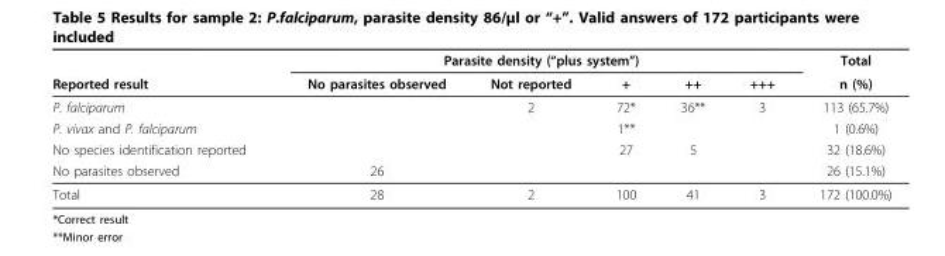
<table><thead><tr><td rowspan="2">Reported result</td><td colspan="5">Parasite density (“plus system”)</td><td rowspan="2">Total n (%)</td></tr><tr><td>No parasites observed</td><td>Not reported</td><td>+</td><td>++</td><td>+++</td></tr></thead><tbody><tr><td>P. falciparum</td><td></td><td>2</td><td>72*</td><td>36**</td><td>3</td><td>113 (65.7%)</td></tr><tr><td>P. vivax and P. falciparum</td><td></td><td></td><td>1**</td><td></td><td></td><td>1 (0.6%)</td></tr><tr><td>No species identification reported</td><td></td><td></td><td>27</td><td>5</td><td></td><td>32 (18.6%)</td></tr><tr><td>No parasites observed</td><td>26</td><td></td><td></td><td></td><td></td><td>26 (15.1%)</td></tr><tr><td>Total</td><td>28</td><td>2</td><td>100</td><td>41</td><td>3</td><td>172 (100.0%)</td></tr></tbody></table>